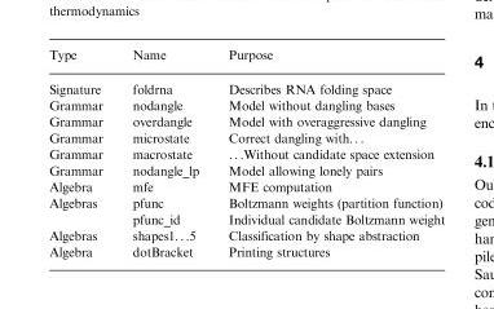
<table><thead><tr><td>Type</td><td>Name</td><td>Purpose</td></tr></thead><tbody><tr><td>Signature</td><td>foldrna</td><td>Describes RNA folding space</td></tr><tr><td>Grammar</td><td>nodangle</td><td>Model without dangling bases</td></tr><tr><td>Grammar</td><td>overdangle</td><td>Model with overaggressive dangling</td></tr><tr><td>Grammar</td><td>microstate</td><td>Correct dangling with.. .</td></tr><tr><td>Grammar</td><td>macrostate</td><td>. . .Without candidate space extension</td></tr><tr><td>Grammar</td><td>nodangle_lp</td><td>Model allowing lonely pairs</td></tr><tr><td>Algebra</td><td>mfe</td><td>MFE computation</td></tr><tr><td rowspan="2">Algebras</td><td>pfunc</td><td>Boltzmann weights (partition function)</td></tr><tr><td>pfunc_id</td><td>Individual candidate Boltzmann weight</td></tr><tr><td>Algebras</td><td>shapes1. . .5</td><td>Classification by shape abstraction</td></tr><tr><td>Algebra</td><td>dotBracket</td><td>Printing structures</td></tr></tbody></table>